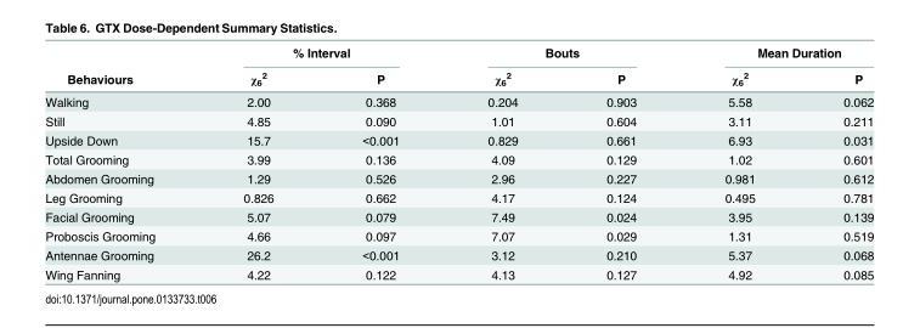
<table><thead><tr><td rowspan="2">Behaviours</td><td colspan="2">% Interval</td><td colspan="2">Bouts</td><td colspan="2">Mean Duration</td></tr><tr><td>χ<sub>6</sub> <sup>2</sup></td><td>P</td><td>χ<sub>6</sub> <sup>2</sup></td><td>P</td><td>χ<sub>6</sub> <sup>2</sup></td><td>P</td></tr></thead><tbody><tr><td>Walking</td><td>2.00</td><td>0.368</td><td>0.204</td><td>0.903</td><td>5.58</td><td>0.062</td></tr><tr><td>Still</td><td>4.85</td><td>0.090</td><td>1.01</td><td>0.604</td><td>3.11</td><td>0.211</td></tr><tr><td>Upside Down</td><td>15.7</td><td>&lt;0.001</td><td>0.829</td><td>0.661</td><td>6.93</td><td>0.031</td></tr><tr><td>Total Grooming</td><td>3.99</td><td>0.136</td><td>4.09</td><td>0.129</td><td>1.02</td><td>0.601</td></tr><tr><td>Abdomen Grooming</td><td>1.29</td><td>0.526</td><td>2.96</td><td>0.227</td><td>0.981</td><td>0.612</td></tr><tr><td>Leg Grooming</td><td>0.826</td><td>0.662</td><td>4.17</td><td>0.124</td><td>0.495</td><td>0.781</td></tr><tr><td>Facial Grooming</td><td>5.07</td><td>0.079</td><td>7.49</td><td>0.024</td><td>3.95</td><td>0.139</td></tr><tr><td>Proboscis Grooming</td><td>4.66</td><td>0.097</td><td>7.07</td><td>0.029</td><td>1.31</td><td>0.519</td></tr><tr><td>Antennae Grooming</td><td>26.2</td><td>&lt;0.001</td><td>3.12</td><td>0.210</td><td>5.37</td><td>0.068</td></tr><tr><td>Wing Fanning</td><td>4.22</td><td>0.122</td><td>4.13</td><td>0.127</td><td>4.92</td><td>0.085</td></tr></tbody></table>